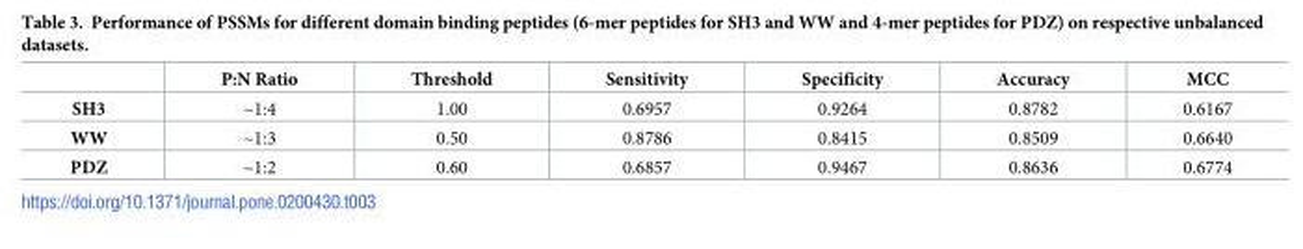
<table><thead><tr><td></td><td>P:N Ratio</td><td>Threshold</td><td>Sensitivity</td><td>Specificity</td><td>Accuracy</td><td>MCC</td></tr></thead><tbody><tr><td>SH3</td><td>~1:4</td><td>1.00</td><td>0.6957</td><td>0.9264</td><td>0.8782</td><td>0.6167</td></tr><tr><td>WW</td><td>~1:3</td><td>0.50</td><td>0.8786</td><td>0.8415</td><td>0.8509</td><td>0.6640</td></tr><tr><td>PDZ</td><td>~1:2</td><td>0.60</td><td>0.6857</td><td>0.9467</td><td>0.8636</td><td>0.6774</td></tr></tbody></table>